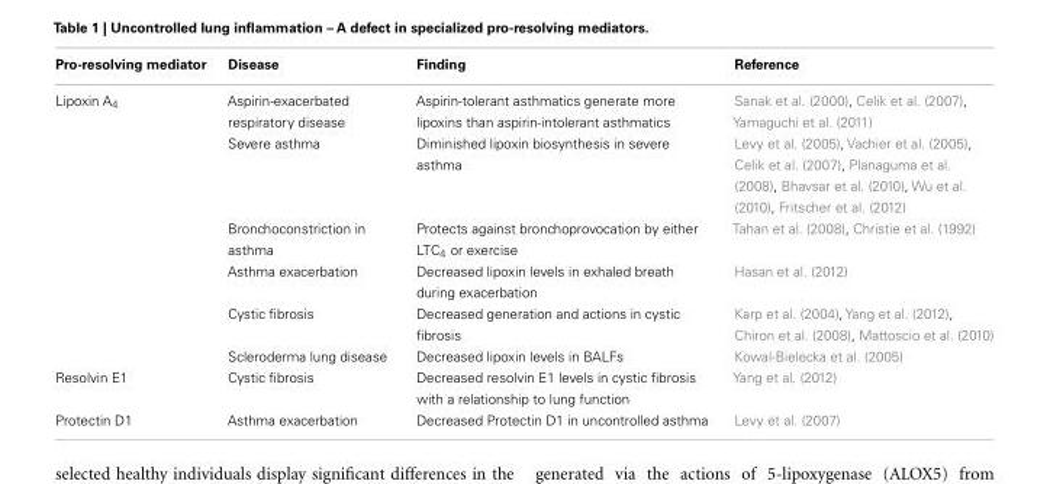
<table><thead><tr><td>Pro-resolving mediator</td><td>Disease</td><td>Finding</td><td>Reference</td></tr></thead><tbody><tr><td rowspan="6">Lipoxin A<sub>4</sub></td><td>Aspirin-exacerbated respiratory disease</td><td>Aspirin-tolerant asthmatics generate more lipoxins than aspirin-intolerant asthmatics</td><td>Sanak et al. (2000), Celik et al. (2007), Yamaguchi et al. (2011)</td></tr><tr><td>Severe asthma</td><td>Diminished lipoxin biosynthesis in severe asthma</td><td>Levy et al. (2005), Vachier et al. (2005), Celik et al. (2007), Planaguma et al. (2008), Bhavsar et al. (2010), Wu et al. (2010), Fritscher et al. (2012)</td></tr><tr><td>Bronchoconstriction in asthma</td><td>Protects against bronchoprovocation by either LTC<sub>4</sub> or exercise</td><td>Tahan et al. (2008), Christie et al. (1992)</td></tr><tr><td>Asthma exacerbation</td><td>Decreased lipoxin levels in exhaled breath during exacerbation</td><td>Hasan et al. (2012)</td></tr><tr><td>Cystic fibrosis</td><td>Decreased generation and actions in cystic fibrosis</td><td>Karp et al. (2004), Yang et al. (2012), Chiron et al. (2008), Mattoscio et al. (2010)</td></tr><tr><td>Scleroderma lung disease</td><td>Decreased lipoxin levels in BALFs</td><td>Kowal-Bielecka et al. (2005)</td></tr><tr><td>Resolvin E1</td><td>Cystic fibrosis</td><td>Decreased resolvin E1 levels in cystic fibrosis with a relationship to lung function</td><td>Yang et al. (2012)</td></tr><tr><td>Protectin D1</td><td>Asthma exacerbation</td><td>Decreased Protectin D1 in uncontrolled asthma</td><td>Levy et al. (2007)</td></tr></tbody></table>